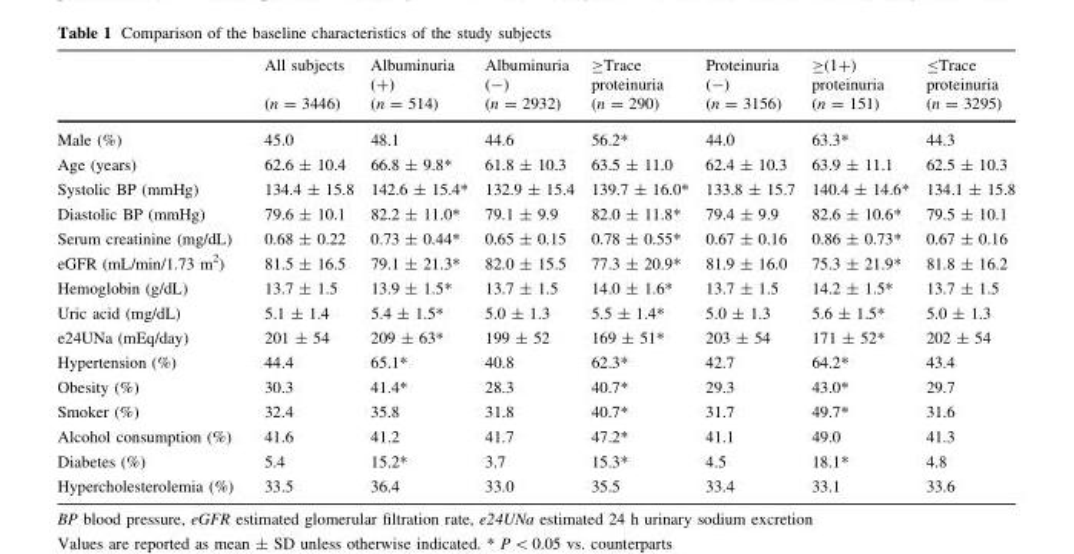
<table><thead><tr><td rowspan="2"></td><td rowspan="2">All subjects (n = 3446)</td><td rowspan="2">Albuminuria (+) (n = 514)</td><td rowspan="2">Albuminuria (-) (n = 2932)</td><td rowspan="2">≥Trace proteinuria (n = 290)</td><td rowspan="2">Proteinuria (-) (n = 3156)</td><td rowspan="2">≥(1+) proteinuria (n = 151)</td><td rowspan="2">≤Trace proteinuria (n = 3295)</td></tr><tr></tr></thead><tbody><tr><td>Male (%)</td><td>45.0</td><td>48.1</td><td>44.6</td><td>56.2*</td><td>44.0</td><td>63.3*</td><td>44.3</td></tr><tr><td>Age (years)</td><td>62.6 ± 10.4</td><td>66.8 ± 9.8*</td><td>61.8 ± 10.3</td><td>63.5 ± 11.0</td><td>62.4 ± 10.3</td><td>63.9 ± 11.1</td><td>62.5 ± 10.3</td></tr><tr><td>Systolic BP (mmHg)</td><td>134.4 ± 15.8</td><td>142.6 ± 15.4*</td><td>132.9 ± 15.4</td><td>139.7 ± 16.0*</td><td>133.8 ± 15.7</td><td>140.4 ± 14.6*</td><td>134.1 ± 15.8</td></tr><tr><td>Diastolic BP (mmHg)</td><td>79.6 ± 10.1</td><td>82.2 ± 11.0*</td><td>79.1 ± 9.9</td><td>82.0 ± 11.8*</td><td>79.4 ± 9.9</td><td>82.6 ± 10.6*</td><td>79.5 ± 10.1</td></tr><tr><td>Serum creatinine (mg/dL)</td><td>0.68 ± 0.22</td><td>0.73 ± 0.44*</td><td>0.65 ± 0.15</td><td>0.78 ± 0.55*</td><td>0.67 ± 0.16</td><td>0.86 ± 0.73*</td><td>0.67 ± 0.16</td></tr><tr><td>eGFR (mL/min/1.73 m<sup>2</sup>)</td><td>81.5 ± 16.5</td><td>79.1 ± 21.3*</td><td>82.0 ± 15.5</td><td>77.3 ± 20.9*</td><td>81.9 ± 16.0</td><td>75.3 ± 21.9*</td><td>81.8 ± 16.2</td></tr><tr><td>Hemoglobin (g/dL)</td><td>13.7 ± 1.5</td><td>13.9 ± 1.5*</td><td>13.7 ± 1.5</td><td>14.0 ± 1.6*</td><td>13.7 ± 1.5</td><td>14.2 ± 1.5*</td><td>13.7 ± 1.5</td></tr><tr><td>Uric acid (mg/dL)</td><td>5.1 ± 1.4</td><td>5.4 ± 1.5*</td><td>5.0 ± 1.3</td><td>5.5 ± 1.4*</td><td>5.0 ± 1.3</td><td>5.6 ± 1.5*</td><td>5.0 ± 1.3</td></tr><tr><td>e24UNa (mEq/day)</td><td>201 ± 54</td><td>209 ± 63*</td><td>199 ± 52</td><td>169 ± 51*</td><td>203 ± 54</td><td>171 ± 52*</td><td>202 ± 54</td></tr><tr><td>Hypertension (%)</td><td>44.4</td><td>65.1*</td><td>40.8</td><td>62.3*</td><td>42.7</td><td>64.2*</td><td>43.4</td></tr><tr><td>Obesity (%)</td><td>30.3</td><td>41.4*</td><td>28.3</td><td>40.7*</td><td>29.3</td><td>43.0*</td><td>29.7</td></tr><tr><td>Smoker (%)</td><td>32.4</td><td>35.8</td><td>31.8</td><td>40.7*</td><td>31.7</td><td>49.7*</td><td>31.6</td></tr><tr><td>Alcohol consumption (%)</td><td>41.6</td><td>41.2</td><td>41.7</td><td>47.2*</td><td>41.1</td><td>49.0</td><td>41.3</td></tr><tr><td>Diabetes (%)</td><td>5.4</td><td>15.2*</td><td>3.7</td><td>15.3*</td><td>4.5</td><td>18.1*</td><td>4.8</td></tr><tr><td>Hypercholesterolemia (%)</td><td>33.5</td><td>36.4</td><td>33.0</td><td>35.5</td><td>33.4</td><td>33.1</td><td>33.6</td></tr></tbody></table>